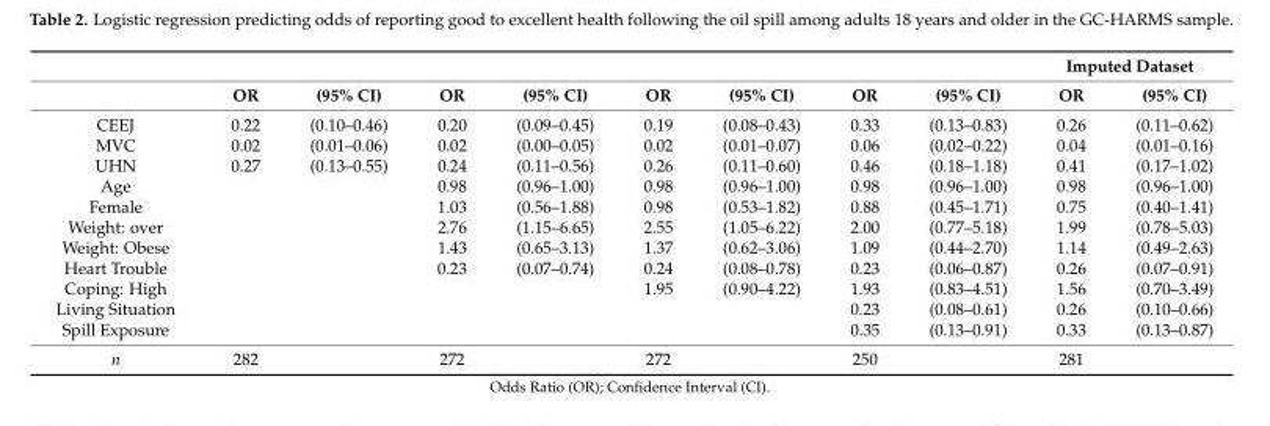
<table><thead><tr><td rowspan="2"></td><td rowspan="2">OR</td><td rowspan="2">(95% CI)</td><td rowspan="2">OR</td><td rowspan="2">(95% CI)</td><td rowspan="2">OR</td><td rowspan="2">(95% CI)</td><td rowspan="2">OR</td><td rowspan="2">(95% CI)</td><td colspan="2">Imputed Dataset</td></tr><tr><td>OR</td><td>(95% CI)</td></tr></thead><tbody><tr><td>CEEJ</td><td>0.22</td><td>(0.10–0.46)</td><td>0.20</td><td>(0.09–0.45)</td><td>0.19</td><td>(0.08–0.43)</td><td>0.33</td><td>(0.13–0.83)</td><td>0.26</td><td>(0.11–0.62)</td></tr><tr><td>MVC</td><td>0.02</td><td>(0.01–0.06)</td><td>0.02</td><td>(0.00–0.05)</td><td>0.02</td><td>(0.01–0.07)</td><td>0.06</td><td>(0.02–0.22)</td><td>0.04</td><td>(0.01–0.16)</td></tr><tr><td>UHN</td><td>0.27</td><td>(0.13–0.55)</td><td>0.24</td><td>(0.11–0.56)</td><td>0.26</td><td>(0.11–0.60)</td><td>0.46</td><td>(0.18–1.18)</td><td>0.41</td><td>(0.17–1.02)</td></tr><tr><td>Age</td><td></td><td></td><td>0.98</td><td>(0.96–1.00)</td><td>0.98</td><td>(0.96–1.00)</td><td>0.98</td><td>(0.96–1.00)</td><td>0.98</td><td>(0.96–1.00)</td></tr><tr><td>Female</td><td></td><td></td><td>1.03</td><td>(0.56–1.88)</td><td>0.98</td><td>(0.53–1.82)</td><td>0.88</td><td>(0.45–1.71)</td><td>0.75</td><td>(0.40–1.41)</td></tr><tr><td>Weight: over</td><td></td><td></td><td>2.76</td><td>(1.15–6.65)</td><td>2.55</td><td>(1.05–6.22)</td><td>2.00</td><td>(0.77–5.18)</td><td>1.99</td><td>(0.78–5.03)</td></tr><tr><td>Weight: Obese</td><td></td><td></td><td>1.43</td><td>(0.65–3.13)</td><td>1.37</td><td>(0.62–3.06)</td><td>1.09</td><td>(0.44–2.70)</td><td>1.14</td><td>(0.49–2.63)</td></tr><tr><td>Heart Trouble</td><td></td><td></td><td>0.23</td><td>(0.07–0.74)</td><td>0.24</td><td>(0.08–0.78)</td><td>0.23</td><td>(0.06–0.87)</td><td>0.26</td><td>(0.07–0.91)</td></tr><tr><td>Coping: High</td><td></td><td></td><td></td><td></td><td>1.95</td><td>(0.90–4.22)</td><td>1.93</td><td>(0.83–4.51)</td><td>1.56</td><td>(0.70–3.49)</td></tr><tr><td>Living Situation</td><td></td><td></td><td></td><td></td><td></td><td></td><td>0.23</td><td>(0.08–0.61)</td><td>0.26</td><td>(0.10–0.66)</td></tr><tr><td>Spill Exposure</td><td></td><td></td><td></td><td></td><td></td><td></td><td>0.35</td><td>(0.13–0.91)</td><td>0.33</td><td>(0.13–0.87)</td></tr><tr><td>n</td><td>282</td><td></td><td>272</td><td></td><td>272</td><td></td><td>250</td><td></td><td>281</td><td></td></tr></tbody></table>